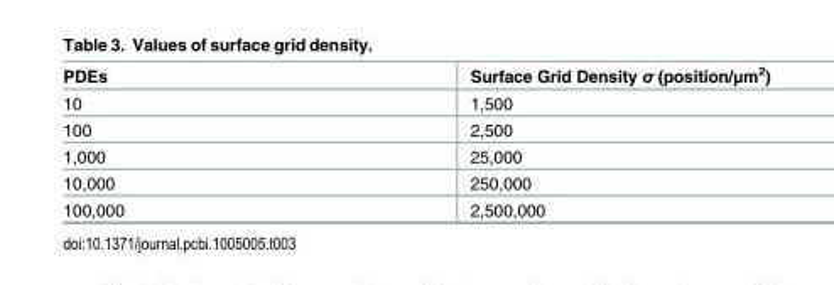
<table><thead><tr><td>PDEs</td><td>Surface Grid Density σ (position/μm<sup>2</sup>)</td></tr></thead><tbody><tr><td>10</td><td>1,500</td></tr><tr><td>100</td><td>2,500</td></tr><tr><td>1,000</td><td>25,000</td></tr><tr><td>10,000</td><td>250,000</td></tr><tr><td>100,000</td><td>2,500,000</td></tr></tbody></table>